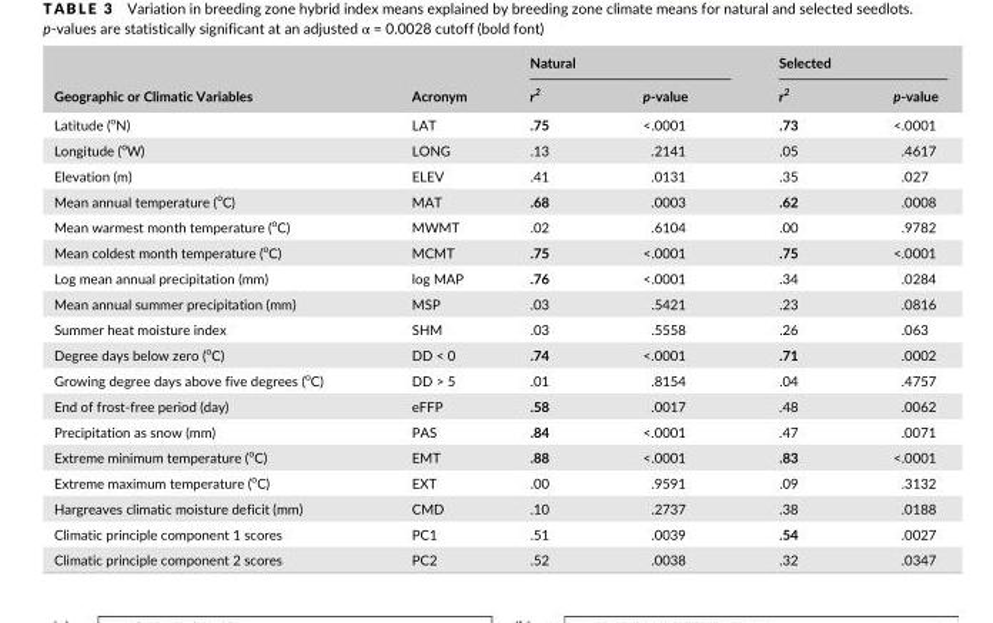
<table><thead><tr><td rowspan="2">Geographic or Climatic Variables</td><td rowspan="2">Acronym</td><td colspan="2">Natural</td><td colspan="2">Selected</td></tr><tr><td>r<sup>2</sup></td><td>p- value</td><td>r<sup>2</sup></td><td>p- value</td></tr></thead><tbody><tr><td>Latitude (<sup>o</sup>N)</td><td>LAT</td><td>.75</td><td>&lt;.0001</td><td>.73</td><td>&lt;.0001</td></tr><tr><td>Longitude (<sup>o</sup>W)</td><td>LONG</td><td>.13</td><td>.2141</td><td>.05</td><td>.4617</td></tr><tr><td>Elevation (m)</td><td>ELEV</td><td>.41</td><td>.0131</td><td>.35</td><td>.027</td></tr><tr><td>Mean annual temperature (<sup>o</sup>C)</td><td>MAT</td><td>.68</td><td>.0003</td><td>.62</td><td>.0008</td></tr><tr><td>Mean warmest month temperature (<sup>o</sup>C)</td><td>MWMT</td><td>.02</td><td>.6104</td><td>.00</td><td>.9782</td></tr><tr><td>Mean coldest month temperature (<sup>o</sup>C)</td><td>MCMT</td><td>.75</td><td>&lt;.0001</td><td>.75</td><td>&lt;.0001</td></tr><tr><td>Log mean annual precipitation (mm)</td><td>log MAP</td><td>.76</td><td>&lt;.0001</td><td>.34</td><td>.0284</td></tr><tr><td>Mean annual summer precipitation (mm)</td><td>MSP</td><td>.03</td><td>.5421</td><td>.23</td><td>.0816</td></tr><tr><td>Summer heat moisture index</td><td>SHM</td><td>.03</td><td>.5558</td><td>.26</td><td>.063</td></tr><tr><td>Degree days below zero (<sup>o</sup>C)</td><td>DD &lt; 0</td><td>.74</td><td>&lt;.0001</td><td>.71</td><td>.0002</td></tr><tr><td>Growing degree days above five degrees (<sup>o</sup>C)</td><td>DD &gt; 5</td><td>.01</td><td>.8154</td><td>.04</td><td>.4757</td></tr><tr><td>End of frost- free period (day)</td><td>eFFP</td><td>.58</td><td>.0017</td><td>.48</td><td>.0062</td></tr><tr><td>Precipitation as snow (mm)</td><td>PAS</td><td>.84</td><td>&lt;.0001</td><td>.47</td><td>.0071</td></tr><tr><td>Extreme minimum temperature (<sup>o</sup>C)</td><td>EMT</td><td>.88</td><td>&lt;.0001</td><td>.83</td><td>&lt;.0001</td></tr><tr><td>Extreme maximum temperature (<sup>o</sup>C)</td><td>EXT</td><td>.00</td><td>.9591</td><td>.09</td><td>.3132</td></tr><tr><td>Hargreaves climatic moisture deficit (mm)</td><td>CMD</td><td>.10</td><td>.2737</td><td>.38</td><td>.0188</td></tr><tr><td>Climatic principle component 1 scores</td><td>PC1</td><td>.51</td><td>.0039</td><td>.54</td><td>.0027</td></tr><tr><td>Climatic principle component 2 scores</td><td>PC2</td><td>.52</td><td>.0038</td><td>.32</td><td>.0347</td></tr></tbody></table>